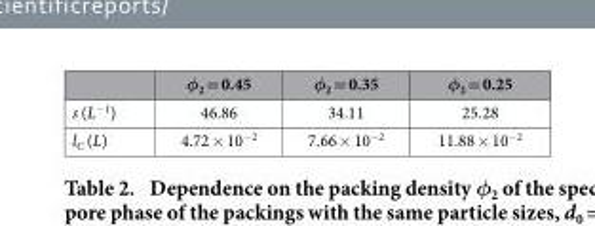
<table><thead><tr><td></td><td>φ<sub>2</sub> = 0.45</td><td>φ<sub>2</sub> = 0.35</td><td>φ<sub>2</sub> = 0.25</td></tr></thead><tbody><tr><td>s (L<sup>−1</sup>)</td><td>46.86</td><td>34.11</td><td>25.28</td></tr><tr><td>l<sub>C</sub> (L)</td><td>4.72 × 10<sup>−2</sup></td><td>7.66 × 10<sup>−2</sup></td><td>11.88 × 10<sup>−2</sup></td></tr></tbody></table>